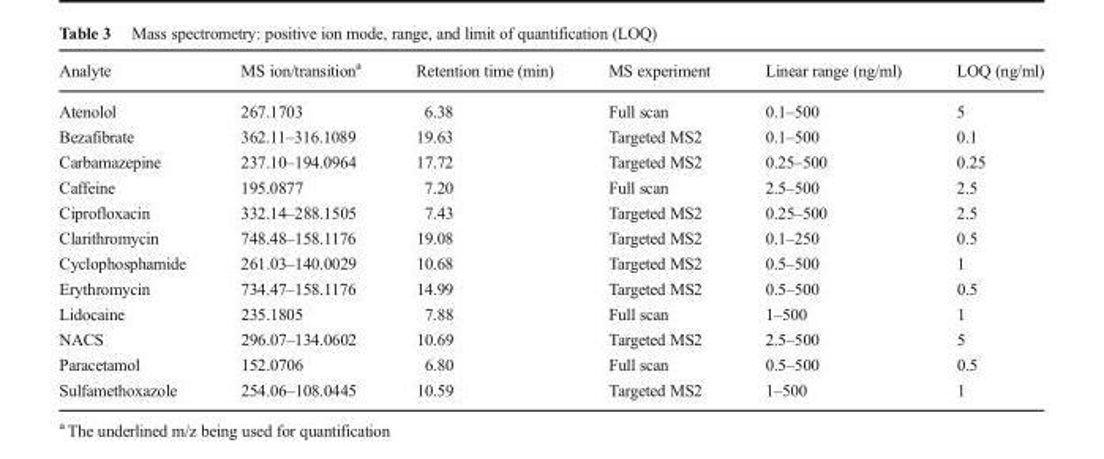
<table><thead><tr><td>Analyte</td><td>MS ion/transition<sup>a</sup></td><td>Retention time (min)</td><td>MS experiment</td><td>Linear range (ng/ml)</td><td>LOQ (ng/ml)</td></tr></thead><tbody><tr><td>Atenolol</td><td>267.1703</td><td>6.38</td><td>Full scan</td><td>0.1–500</td><td>5</td></tr><tr><td>Bezafibrate</td><td>362.11–316.1089</td><td>19.63</td><td>Targeted MS2</td><td>0.1–500</td><td>0.1</td></tr><tr><td>Carbamazepine</td><td>237.10–194.0964</td><td>17.72</td><td>Targeted MS2</td><td>0.25–500</td><td>0.25</td></tr><tr><td>Caffeine</td><td>195.0877</td><td>7.20</td><td>Full scan</td><td>2.5–500</td><td>2.5</td></tr><tr><td>Ciprofloxacin</td><td>332.14–288.1505</td><td>7.43</td><td>Targeted MS2</td><td>0.25–500</td><td>2.5</td></tr><tr><td>Clarithromycin</td><td>748.48–158.1176</td><td>19.08</td><td>Targeted MS2</td><td>0.1–250</td><td>0.5</td></tr><tr><td>Cyclophosphamide</td><td>261.03–140.0029</td><td>10.68</td><td>Targeted MS2</td><td>0.5–500</td><td>1</td></tr><tr><td>Erythromycin</td><td>734.47–158.1176</td><td>14.99</td><td>Targeted MS2</td><td>0.5–500</td><td>0.5</td></tr><tr><td>Lidocaine</td><td>235.1805</td><td>7.88</td><td>Full scan</td><td>1–500</td><td>1</td></tr><tr><td>NACS</td><td>296.07–134.0602</td><td>10.69</td><td>Targeted MS2</td><td>2.5–500</td><td>5</td></tr><tr><td>Paracetamol</td><td>152.0706</td><td>6.80</td><td>Full scan</td><td>0.5–500</td><td>0.5</td></tr><tr><td>Sulfamethoxazole</td><td>254.06–108.0445</td><td>10.59</td><td>Targeted MS2</td><td>1–500</td><td>1</td></tr></tbody></table>